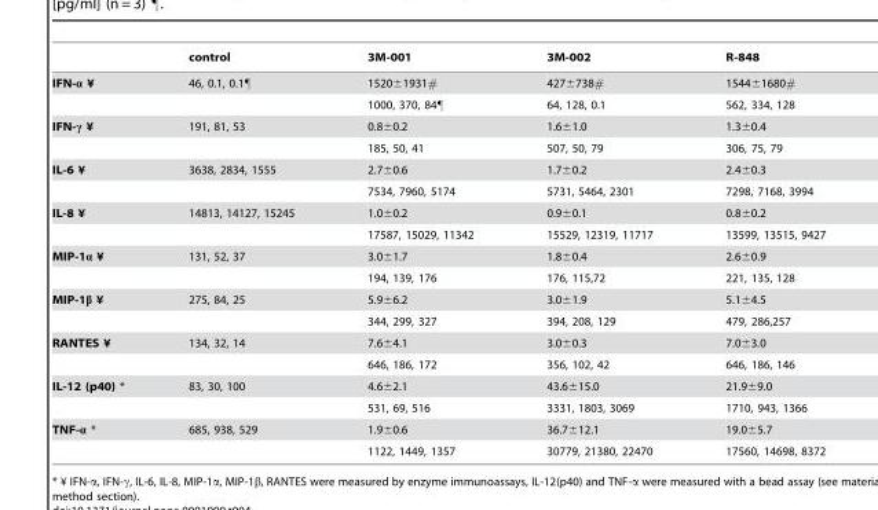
<table><thead><tr><td></td><td>control</td><td>3M-001</td><td>3M-002</td><td>R-848</td></tr></thead><tbody><tr><td rowspan="2">IFN-α ¥</td><td>46, 0.1, 0.1¶</td><td>1520±1931#</td><td>427±738#</td><td>1544±1680#</td></tr><tr><td></td><td>1000, 370, 84¶</td><td>64, 128, 0.1</td><td>562, 334, 128</td></tr><tr><td rowspan="2">IFN-γ ¥</td><td>191, 81, 53</td><td>0.8±0.2</td><td>1.6±1.0</td><td>1.3±0.4</td></tr><tr><td></td><td>185, 50, 41</td><td>507, 50, 79</td><td>306, 75, 79</td></tr><tr><td rowspan="2">IL-6 ¥</td><td>3638, 2834, 1555</td><td>2.7±0.6</td><td>1.7±0.2</td><td>2.4±0.3</td></tr><tr><td></td><td>7534, 7960, 5174</td><td>5731, 5464, 2301</td><td>7298, 7168, 3994</td></tr><tr><td rowspan="2">IL-8 ¥</td><td>14813, 14127, 15245</td><td>1.0±0.2</td><td>0.9±0.1</td><td>0.8±0.2</td></tr><tr><td></td><td>17587, 15029, 11342</td><td>15529, 12319, 11717</td><td>13599, 13515, 9427</td></tr><tr><td rowspan="2">MIP-1α ¥</td><td>131, 52, 37</td><td>3.0±1.7</td><td>1.8±0.4</td><td>2.6±0.9</td></tr><tr><td></td><td>194, 139, 176</td><td>176, 115,72</td><td>221, 135, 128</td></tr><tr><td rowspan="2">MIP-1β ¥</td><td>275, 84, 25</td><td>5.9±6.2</td><td>3.0±1.9</td><td>5.1±4.5</td></tr><tr><td></td><td>344, 299, 327</td><td>394, 208, 129</td><td>479, 286,257</td></tr><tr><td rowspan="2">RANTES ¥</td><td>134, 32, 14</td><td>7.6±4.1</td><td>3.0±0.3</td><td>7.0±3.0</td></tr><tr><td></td><td>646, 186, 172</td><td>356, 102, 42</td><td>646, 186, 146</td></tr><tr><td rowspan="2">IL-12 (p40) *</td><td>83, 30, 100</td><td>4.6±2.1</td><td>43.6±15.0</td><td>21.9±9.0</td></tr><tr><td></td><td>531, 69, 516</td><td>3331, 1803, 3069</td><td>1710, 943, 1366</td></tr><tr><td rowspan="2">TNF-α *</td><td>685, 938, 529</td><td>1.9±0.6</td><td>36.7±12.1</td><td>19.0±5.7</td></tr><tr><td></td><td>1122, 1449, 1357</td><td>30779, 21380, 22470</td><td>17560, 14698, 8372</td></tr></tbody></table>